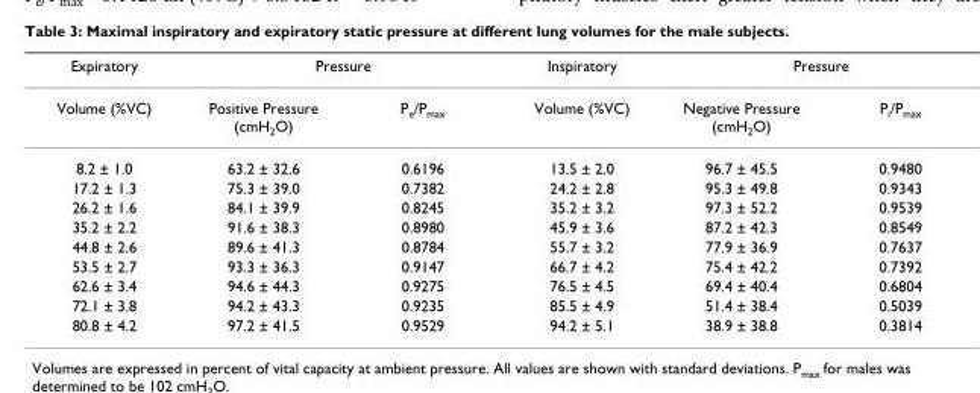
<table><thead><tr><td rowspan="2">Expiratory Volume (%VC)</td><td colspan="2">Pressure</td><td rowspan="2">Inspiratory Volume (%VC)</td><td colspan="2">Pressure</td></tr><tr><td>Positive Pressure (cmH2O)</td><td>Pe/Pmax</td><td>Negative Pressure (cmH2O)</td><td>Pi/Pmax</td></tr></thead><tbody><tr><td>8.2 ± 1.0</td><td>63.2 ± 32.6</td><td>0.6196</td><td>13.5 ± 2.0</td><td>96.7 ± 45.5</td><td>0.9480</td></tr><tr><td>17.2 ± 1.3</td><td>75.3 ± 39.0</td><td>0.7382</td><td>24.2 ± 2.8</td><td>95.3 ± 49.8</td><td>0.9343</td></tr><tr><td>26.2 ± 1.6</td><td>84.1 ± 39.9</td><td>0.8245</td><td>35.2 ± 3.2</td><td>97.3 ± 52.2</td><td>0.9539</td></tr><tr><td>35.2 ± 2.2</td><td>91.6 ± 38.3</td><td>0.8980</td><td>45.9 ± 3.6</td><td>87.2 ± 42.3</td><td>0.8549</td></tr><tr><td>44.8 ± 2.6</td><td>89.6 ± 41.3</td><td>0.8784</td><td>55.7 ± 3.2</td><td>77.9 ± 36.9</td><td>0.7637</td></tr><tr><td>53.5 ± 2.7</td><td>93.3 ± 36.3</td><td>0.9147</td><td>66.7 ± 4.2</td><td>75.4 ± 42.2</td><td>0.7392</td></tr><tr><td>62.6 ± 3.4</td><td>94.6 ± 44.3</td><td>0.9275</td><td>76.5 ± 4.5</td><td>69.4 ± 40.4</td><td>0.6804</td></tr><tr><td>72.1 ± 3.8</td><td>94.2 ± 43.3</td><td>0.9235</td><td>85.5 ± 4.9</td><td>51.4 ± 38.4</td><td>0.5039</td></tr><tr><td>80.8 ± 4.2</td><td>97.2 ± 41.5</td><td>0.9529</td><td>94.2 ± 5.1</td><td>38.9 ± 38.8</td><td>0.3814</td></tr></tbody></table>